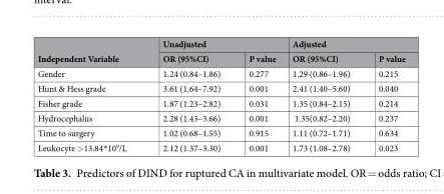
<table><thead><tr><td rowspan="2">Independent Variable</td><td colspan="2">Unadjusted</td><td colspan="2">Adjusted</td></tr><tr><td>OR (95%CI)</td><td>P value</td><td>OR (95%CI)</td><td>P value</td></tr></thead><tbody><tr><td>Gender</td><td>1.24 (0.84–1.86)</td><td>0.277</td><td>1.29 (0.86–1.96)</td><td>0.215</td></tr><tr><td>Hunt &amp; Hess grade</td><td>3.61 (1.64–7.92)</td><td>0.001</td><td>2.41 (1.40–5.60)</td><td>0.040</td></tr><tr><td>Fisher grade</td><td>1.87 (1.23–2.82)</td><td>0.031</td><td>1.35 (0.84–2.15)</td><td>0.214</td></tr><tr><td>Hydrocephalus</td><td>2.28 (1.43–3.66)</td><td>0.001</td><td>1.35(0.82–2.20)</td><td>0.237</td></tr><tr><td>Time to surgery</td><td>1.02 (0.68–1.55)</td><td>0.915</td><td>1.11 (0.72–1.71)</td><td>0.634</td></tr><tr><td>Leukocyte &gt;13.84*10<sup>9</sup>/L</td><td>2.12 (1.37–3.30)</td><td>0.001</td><td>1.73 (1.08–2.78)</td><td>0.023</td></tr></tbody></table>